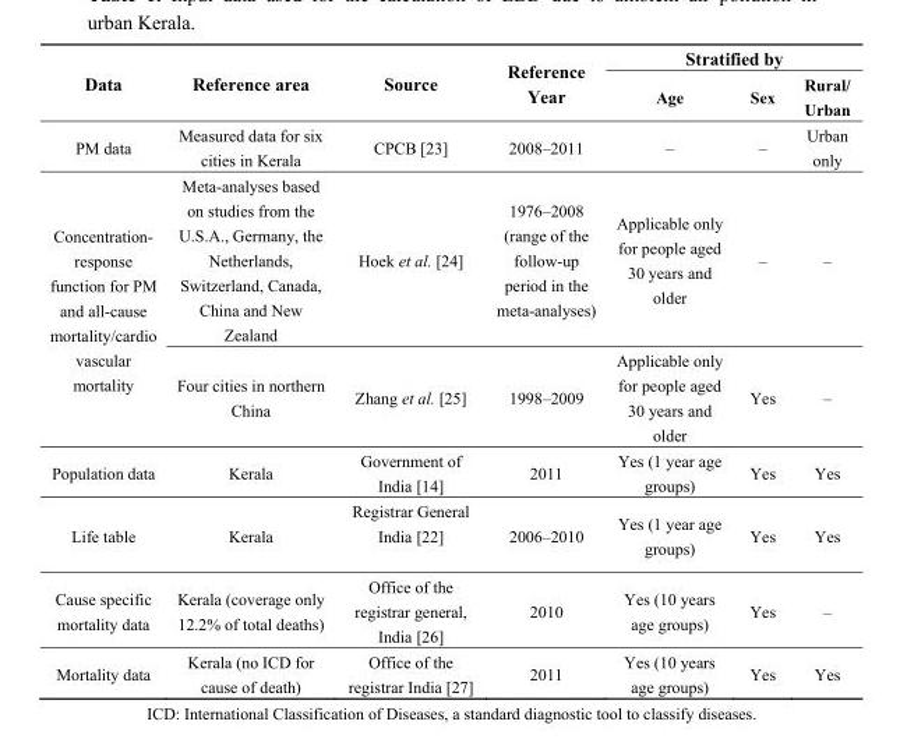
<table><thead><tr><td rowspan="2">Data</td><td rowspan="2">Reference area</td><td rowspan="2">Source</td><td rowspan="2">Reference Year</td><td colspan="3">Stratified by</td></tr><tr><td>Age</td><td>Sex</td><td>Rural/ Urban</td></tr></thead><tbody><tr><td>PM data</td><td>Measured data for six cities in Kerala</td><td>CPCB [23]</td><td>2008–2011</td><td>–</td><td>–</td><td>Urban only</td></tr><tr><td rowspan="2">Concentration- response function for PM and all-cause mortality/cardio vascular mortality</td><td>Meta-analyses based on studies from the U.S.A., Germany, the Netherlands, Switzerland, Canada, China and New Zealand</td><td>Hoek et al. [24]</td><td>1976–2008 (range of the follow-up period in the meta-analyses)</td><td>Applicable only for people aged 30 years and older</td><td>–</td><td>–</td></tr><tr><td>Four cities in northern China</td><td>Zhang et al. [25]</td><td>1998–2009</td><td>Applicable only for people aged 30 years and older</td><td>Yes</td><td>–</td></tr><tr><td>Population data</td><td>Kerala</td><td>Government of India [14]</td><td>2011</td><td>Yes (1 year age groups)</td><td>Yes</td><td>Yes</td></tr><tr><td>Life table</td><td>Kerala</td><td>Registrar General India [22]</td><td>2006–2010</td><td>Yes (1 year age groups)</td><td>Yes</td><td>Yes</td></tr><tr><td>Cause specific mortality data</td><td>Kerala (coverage only 12.2% of total deaths)</td><td>Office of the registrar general, India [26]</td><td>2010</td><td>Yes (10 years age groups)</td><td>Yes</td><td>–</td></tr><tr><td>Mortality data</td><td>Kerala (no ICD for cause of death)</td><td>Office of the registrar India [27]</td><td>2011</td><td>Yes (10 years age groups)</td><td>Yes</td><td>Yes</td></tr></tbody></table>